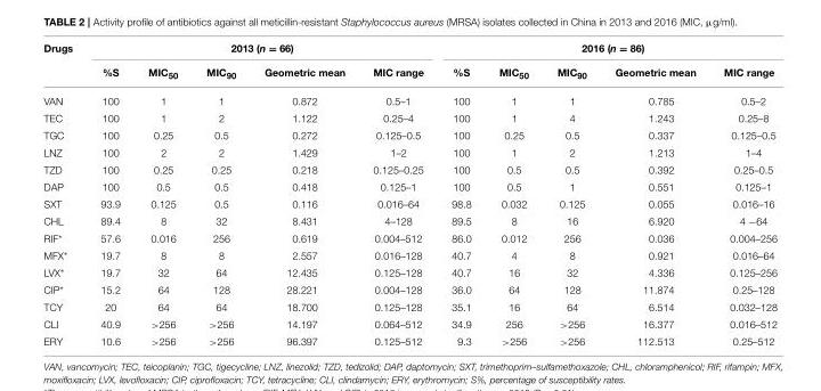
<table><thead><tr><td rowspan="2">Drugs</td><td colspan="5">2013 (n = 66)</td><td colspan="5">2016 (n = 86)</td></tr><tr><td>%S</td><td>MIC<sub>50</sub></td><td>MIC<sub>90</sub></td><td>Geometric mean</td><td>MIC range</td><td>%S</td><td>MIC<sub>50</sub></td><td>MIC<sub>90</sub></td><td>Geometric mean</td><td>MIC range</td></tr></thead><tbody><tr><td>VAN</td><td>100</td><td>1</td><td>1</td><td>0.872</td><td>0.5–1</td><td>100</td><td>1</td><td>1</td><td>0.785</td><td>0.5–2</td></tr><tr><td>TEC</td><td>100</td><td>1</td><td>2</td><td>1.122</td><td>0.25–4</td><td>100</td><td>1</td><td>4</td><td>1.243</td><td>0.25–8</td></tr><tr><td>TGC</td><td>100</td><td>0.25</td><td>0.5</td><td>0.272</td><td>0.125–0.5</td><td>100</td><td>0.25</td><td>0.5</td><td>0.337</td><td>0.125–0.5</td></tr><tr><td>LNZ</td><td>100</td><td>2</td><td>2</td><td>1.429</td><td>1–2</td><td>100</td><td>1</td><td>2</td><td>1.213</td><td>1–4</td></tr><tr><td>TZD</td><td>100</td><td>0.25</td><td>0.25</td><td>0.218</td><td>0.125–0.25</td><td>100</td><td>0.5</td><td>0.5</td><td>0.392</td><td>0.25–0.5</td></tr><tr><td>DAP</td><td>100</td><td>0.5</td><td>0.5</td><td>0.418</td><td>0.125–1</td><td>100</td><td>0.5</td><td>1</td><td>0.551</td><td>0.125–1</td></tr><tr><td>SXT</td><td>93.9</td><td>0.125</td><td>0.5</td><td>0.116</td><td>0.016–64</td><td>98.8</td><td>0.032</td><td>0.125</td><td>0.055</td><td>0.016–16</td></tr><tr><td>CHL</td><td>89.4</td><td>8</td><td>32</td><td>8.431</td><td>4–128</td><td>89.5</td><td>8</td><td>16</td><td>6.920</td><td>4 −64</td></tr><tr><td>RIF*</td><td>57.6</td><td>0.016</td><td>256</td><td>0.619</td><td>0.004–512</td><td>86.0</td><td>0.012</td><td>256</td><td>0.036</td><td>0.004–256</td></tr><tr><td>MFX*</td><td>19.7</td><td>8</td><td>8</td><td>2.557</td><td>0.016–128</td><td>40.7</td><td>4</td><td>8</td><td>0.921</td><td>0.016–64</td></tr><tr><td>LVX*</td><td>19.7</td><td>32</td><td>64</td><td>12.435</td><td>0.125–128</td><td>40.7</td><td>16</td><td>32</td><td>4.336</td><td>0.125–256</td></tr><tr><td>CIP*</td><td>15.2</td><td>64</td><td>128</td><td>28.221</td><td>0.004–128</td><td>36.0</td><td>64</td><td>128</td><td>11.874</td><td>0.25–128</td></tr><tr><td>TCY</td><td>20</td><td>64</td><td>64</td><td>18.700</td><td>0.125–128</td><td>35.1</td><td>16</td><td>64</td><td>6.514</td><td>0.032–128</td></tr><tr><td>CLI</td><td>40.9</td><td>&gt;256</td><td>&gt;256</td><td>14.197</td><td>0.064–512</td><td>34.9</td><td>256</td><td>&gt;256</td><td>16.377</td><td>0.016–512</td></tr><tr><td>ERY</td><td>10.6</td><td>&gt;256</td><td>&gt;256</td><td>96.397</td><td>0.125–512</td><td>9.3</td><td>&gt;256</td><td>&gt;256</td><td>112.513</td><td>0.25–512</td></tr></tbody></table>